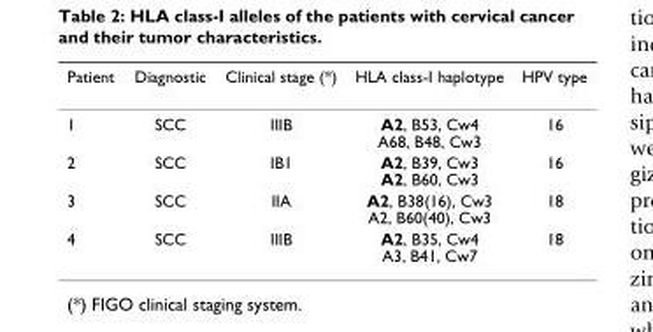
<table><thead><tr><td>Patient</td><td>Diagnostic</td><td>Clinical stage (*)</td><td>HLA class-I haplotype</td><td>HPV type</td></tr></thead><tbody><tr><td>1</td><td>SCC</td><td>IIIB</td><td>A2, B53, Cw4 A68, B48, Cw3</td><td>16</td></tr><tr><td>2</td><td>SCC</td><td>IB1</td><td>A2, B39, Cw3 A2, B60, Cw3</td><td>16</td></tr><tr><td>3</td><td>SCC</td><td>IIA</td><td>A2, B38(16), Cw3 A2, B60(40), Cw3</td><td>18</td></tr><tr><td>4</td><td>SCC</td><td>IIIB</td><td>A2, B35, Cw4 A3, B41, Cw7</td><td>18</td></tr></tbody></table>